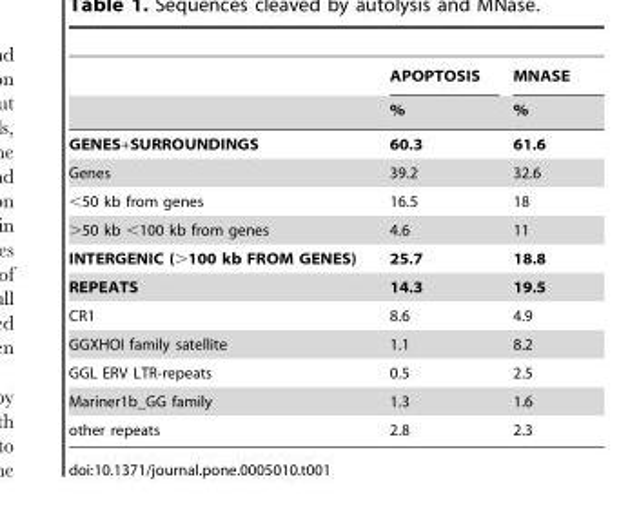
<table><thead><tr><td rowspan="2"></td><td rowspan="2">APOPTOSIS %</td><td rowspan="2">MNASE %</td></tr><tr></tr></thead><tbody><tr><td>GENES+SURROUNDINGS</td><td>60.3</td><td>61.6</td></tr><tr><td>Genes</td><td>39.2</td><td>32.6</td></tr><tr><td>&lt;50 kb from genes</td><td>16.5</td><td>18</td></tr><tr><td>&gt;50 kb &lt;100 kb from genes</td><td>4.6</td><td>11</td></tr><tr><td>INTERGENIC (&gt;100 kb FROM GENES)</td><td>25.7</td><td>18.8</td></tr><tr><td>REPEATS</td><td>14.3</td><td>19.5</td></tr><tr><td>CR1</td><td>8.6</td><td>4.9</td></tr><tr><td>GGXHOI family satellite</td><td>1.1</td><td>8.2</td></tr><tr><td>GGL ERV LTR-repeats</td><td>0.5</td><td>2.5</td></tr><tr><td>Mariner1b_GG family</td><td>1.3</td><td>1.6</td></tr><tr><td>other repeats</td><td>2.8</td><td>2.3</td></tr></tbody></table>